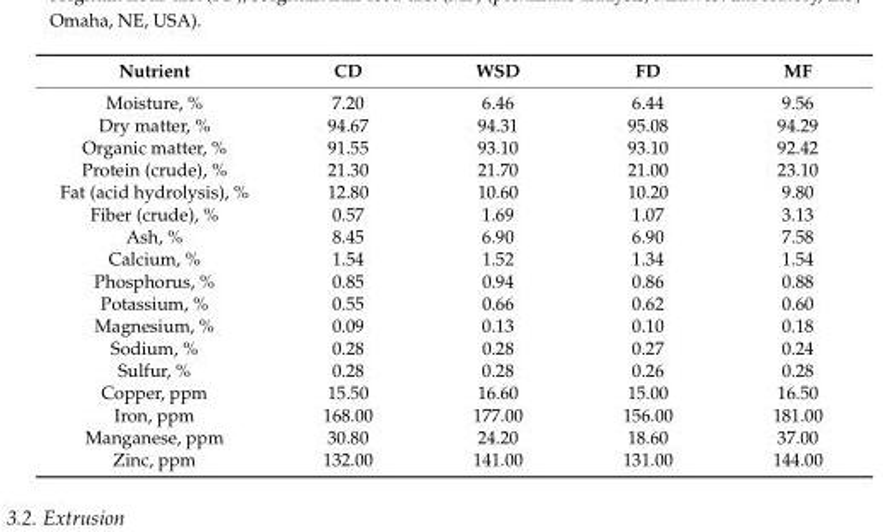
<table><thead><tr><td>Nutrient</td><td>CD</td><td>WSD</td><td>FD</td><td>MF</td></tr></thead><tbody><tr><td>Moisture, %</td><td>7.20</td><td>6.46</td><td>6.44</td><td>9.56</td></tr><tr><td>Dry matter, %</td><td>94.67</td><td>94.31</td><td>95.08</td><td>94.29</td></tr><tr><td>Organic matter, %</td><td>91.55</td><td>93.10</td><td>93.10</td><td>92.42</td></tr><tr><td>Protein (crude), %</td><td>21.30</td><td>21.70</td><td>21.00</td><td>23.10</td></tr><tr><td>Fat (acid hydrolysis), %</td><td>12.80</td><td>10.60</td><td>10.20</td><td>9.80</td></tr><tr><td>Fiber (crude), %</td><td>0.57</td><td>1.69</td><td>1.07</td><td>3.13</td></tr><tr><td>Ash, %</td><td>8.45</td><td>6.90</td><td>6.90</td><td>7.58</td></tr><tr><td>Calcium, %</td><td>1.54</td><td>1.52</td><td>1.34</td><td>1.54</td></tr><tr><td>Phosphorus, %</td><td>0.85</td><td>0.94</td><td>0.86</td><td>0.88</td></tr><tr><td>Potassium, %</td><td>0.55</td><td>0.66</td><td>0.62</td><td>0.60</td></tr><tr><td>Magnesium, %</td><td>0.09</td><td>0.13</td><td>0.10</td><td>0.18</td></tr><tr><td>Sodium, %</td><td>0.28</td><td>0.28</td><td>0.27</td><td>0.24</td></tr><tr><td>Sulfur, %</td><td>0.28</td><td>0.28</td><td>0.26</td><td>0.28</td></tr><tr><td>Copper, ppm</td><td>15.50</td><td>16.60</td><td>15.00</td><td>16.50</td></tr><tr><td>Iron, ppm</td><td>168.00</td><td>177.00</td><td>156.00</td><td>181.00</td></tr><tr><td>Manganese, ppm</td><td>30.80</td><td>24.20</td><td>18.60</td><td>37.00</td></tr><tr><td>Zinc, ppm</td><td>132.00</td><td>141.00</td><td>131.00</td><td>144.00</td></tr></tbody></table>